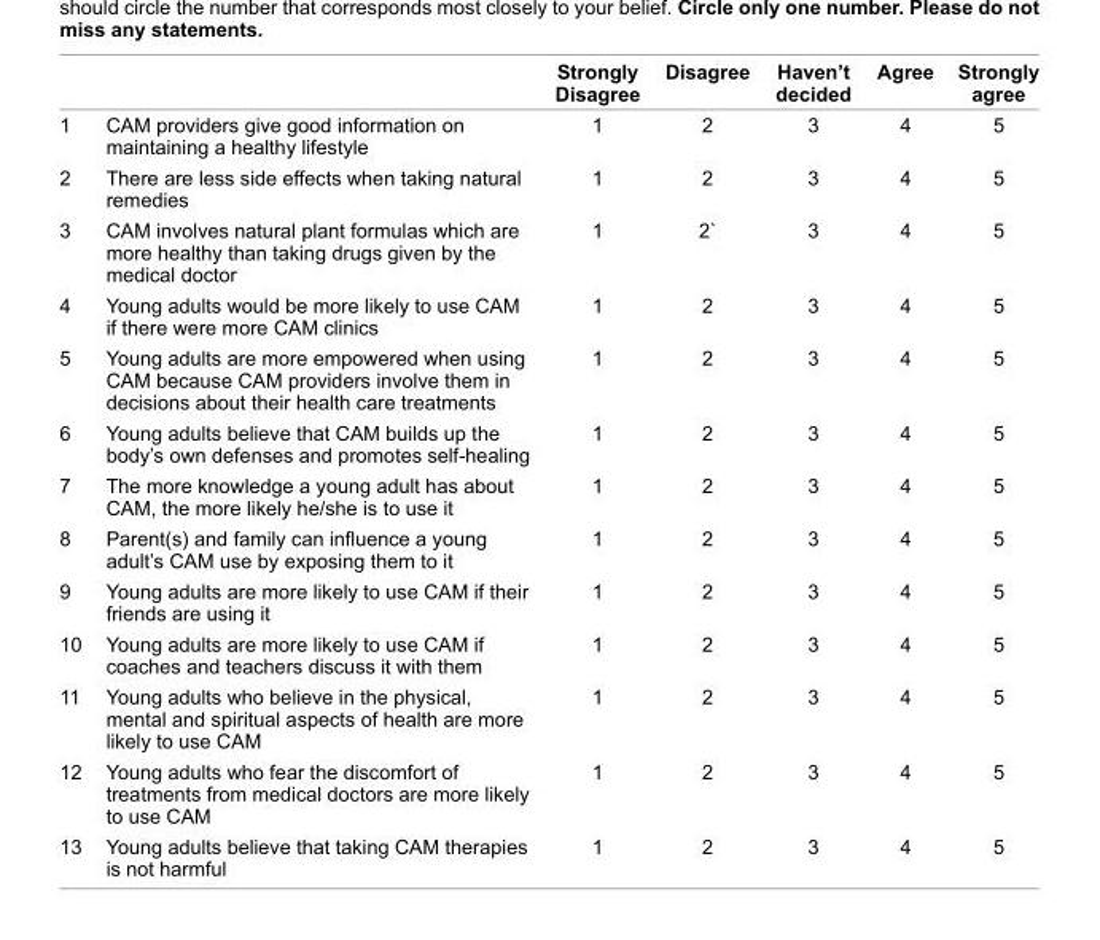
<table><thead><tr><td></td><td></td><td>Strongly Disagree</td><td>Disagree</td><td>Haven’t decided</td><td>Agree</td><td>Strongly agree</td></tr></thead><tbody><tr><td>1</td><td>CAM providers give good information on maintaining a healthy lifestyle</td><td>1</td><td>2</td><td>3</td><td>4</td><td>5</td></tr><tr><td>2</td><td>There are less side effects when taking natural remedies</td><td>1</td><td>2</td><td>3</td><td>4</td><td>5</td></tr><tr><td>3</td><td>CAM involves natural plant formulas which are more healthy than taking drugs given by the medical doctor</td><td>1</td><td>2`</td><td>3</td><td>4</td><td>5</td></tr><tr><td>4</td><td>Young adults would be more likely to use CAM if there were more CAM clinics</td><td>1</td><td>2</td><td>3</td><td>4</td><td>5</td></tr><tr><td>5</td><td>Young adults are more empowered when using CAM because CAM providers involve them in decisions about their health care treatments</td><td>1</td><td>2</td><td>3</td><td>4</td><td>5</td></tr><tr><td>6</td><td>Young adults believe that CAM builds up the body’s own defenses and promotes self-healing</td><td>1</td><td>2</td><td>3</td><td>4</td><td>5</td></tr><tr><td>7</td><td>The more knowledge a young adult has about CAM, the more likely he/she is to use it</td><td>1</td><td>2</td><td>3</td><td>4</td><td>5</td></tr><tr><td>8</td><td>Parent(s) and family can infl uence a young adult’s CAM use by exposing them to it</td><td>1</td><td>2</td><td>3</td><td>4</td><td>5</td></tr><tr><td>9</td><td>Young adults are more likely to use CAM if their friends are using it</td><td>1</td><td>2</td><td>3</td><td>4</td><td>5</td></tr><tr><td>10</td><td>Young adults are more likely to use CAM if coaches and teachers discuss it with them</td><td>1</td><td>2</td><td>3</td><td>4</td><td>5</td></tr><tr><td>11</td><td>Young adults who believe in the physical, mental and spiritual aspects of health are more likely to use CAM</td><td>1</td><td>2</td><td>3</td><td>4</td><td>5</td></tr><tr><td>12</td><td>Young adults who fear the discomfort of treatments from medical doctors are more likely to use CAM</td><td>1</td><td>2</td><td>3</td><td>4</td><td>5</td></tr><tr><td>13</td><td>Young adults believe that taking CAM therapies is not harmful</td><td>1</td><td>2</td><td>3</td><td>4</td><td>5</td></tr></tbody></table>